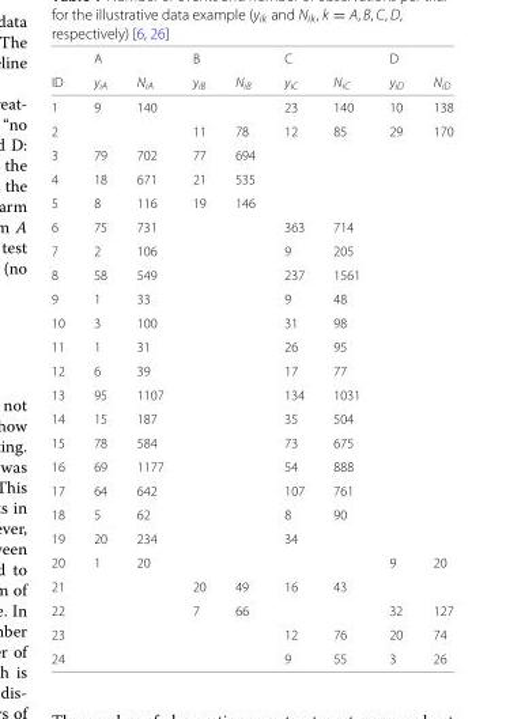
<table><thead><tr><td rowspan="2">ID</td><td colspan="2">A</td><td colspan="2">B</td><td colspan="2">C</td><td colspan="2">D</td></tr><tr><td>y<sub>iA</sub></td><td>N<sub>iA</sub></td><td>y<sub>iB</sub></td><td>N<sub>iB</sub></td><td>y<sub>iC</sub></td><td>N<sub>iC</sub></td><td>y<sub>iD</sub></td><td>N<sub>iD</sub></td></tr></thead><tbody><tr><td>1</td><td>9</td><td>140</td><td></td><td></td><td>23</td><td>140</td><td>10</td><td>138</td></tr><tr><td>2</td><td></td><td></td><td>11</td><td>78</td><td>12</td><td>85</td><td>29</td><td>170</td></tr><tr><td>3</td><td>79</td><td>702</td><td>77</td><td>694</td><td></td><td></td><td></td><td></td></tr><tr><td>4</td><td>18</td><td>671</td><td>21</td><td>535</td><td></td><td></td><td></td><td></td></tr><tr><td>5</td><td>8</td><td>116</td><td>19</td><td>146</td><td></td><td></td><td></td><td></td></tr><tr><td>6</td><td>75</td><td>731</td><td></td><td></td><td>363</td><td>714</td><td></td><td></td></tr><tr><td>7</td><td>2</td><td>106</td><td></td><td></td><td>9</td><td>205</td><td></td><td></td></tr><tr><td>8</td><td>58</td><td>549</td><td></td><td></td><td>237</td><td>1561</td><td></td><td></td></tr><tr><td>9</td><td>1</td><td>33</td><td></td><td></td><td>9</td><td>48</td><td></td><td></td></tr><tr><td>10</td><td>3</td><td>100</td><td></td><td></td><td>31</td><td>98</td><td></td><td></td></tr><tr><td>11</td><td>1</td><td>31</td><td></td><td></td><td>26</td><td>95</td><td></td><td></td></tr><tr><td>12</td><td>6</td><td>39</td><td></td><td></td><td>17</td><td>77</td><td></td><td></td></tr><tr><td>13</td><td>95</td><td>1107</td><td></td><td></td><td>134</td><td>1031</td><td></td><td></td></tr><tr><td>14</td><td>15</td><td>187</td><td></td><td></td><td>35</td><td>504</td><td></td><td></td></tr><tr><td>15</td><td>78</td><td>584</td><td></td><td></td><td>73</td><td>675</td><td></td><td></td></tr><tr><td>16</td><td>69</td><td>1177</td><td></td><td></td><td>54</td><td>888</td><td></td><td></td></tr><tr><td>17</td><td>64</td><td>642</td><td></td><td></td><td>107</td><td>761</td><td></td><td></td></tr><tr><td>18</td><td>5</td><td>62</td><td></td><td></td><td>8</td><td>90</td><td></td><td></td></tr><tr><td>19</td><td>20</td><td>234</td><td></td><td></td><td>34</td><td></td><td></td><td></td></tr><tr><td>20</td><td>1</td><td>20</td><td></td><td></td><td></td><td></td><td>9</td><td>20</td></tr><tr><td>21</td><td></td><td></td><td>20</td><td>49</td><td>16</td><td>43</td><td></td><td></td></tr><tr><td>22</td><td></td><td></td><td>7</td><td>66</td><td></td><td></td><td>32</td><td>127</td></tr><tr><td>23</td><td></td><td></td><td></td><td></td><td>12</td><td>76</td><td>20</td><td>74</td></tr><tr><td>24</td><td></td><td></td><td></td><td></td><td>9</td><td>55</td><td>3</td><td>26</td></tr></tbody></table>